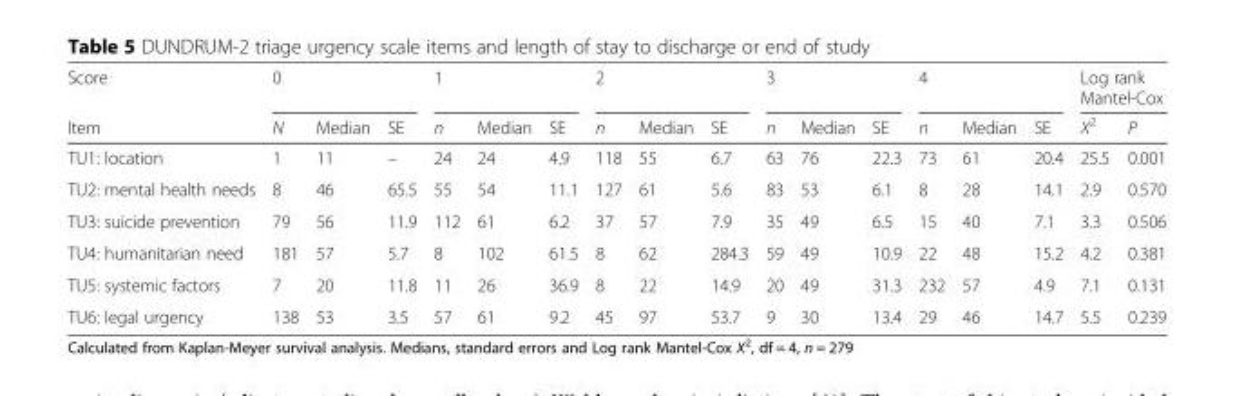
<table><thead><tr><td rowspan="2">Score Item</td><td colspan="3">0</td><td colspan="3">1</td><td colspan="3">2</td><td colspan="3">3</td><td colspan="3">4</td><td colspan="2">Log rank Mantel-Cox</td></tr><tr><td>N</td><td>Median</td><td>SE</td><td>n</td><td>Median</td><td>SE</td><td>n</td><td>Median</td><td>SE</td><td>n</td><td>Median</td><td>SE</td><td>n</td><td>Median</td><td>SE</td><td>X<sup>2</sup></td><td>P</td></tr></thead><tbody><tr><td>TU1: location</td><td>1</td><td>11</td><td>–</td><td>24</td><td>24</td><td>4.9</td><td>118</td><td>55</td><td>6.7</td><td>63</td><td>76</td><td>22.3</td><td>73</td><td>61</td><td>20.4</td><td>25.5</td><td>0.001</td></tr><tr><td>TU2: mental health needs</td><td>8</td><td>46</td><td>65.5</td><td>55</td><td>54</td><td>11.1</td><td>127</td><td>61</td><td>5.6</td><td>83</td><td>53</td><td>6.1</td><td>8</td><td>28</td><td>14.1</td><td>2.9</td><td>0.570</td></tr><tr><td>TU3: suicide prevention</td><td>79</td><td>56</td><td>11.9</td><td>112</td><td>61</td><td>6.2</td><td>37</td><td>57</td><td>7.9</td><td>35</td><td>49</td><td>6.5</td><td>15</td><td>40</td><td>7.1</td><td>3.3</td><td>0.506</td></tr><tr><td>TU4: humanitarian need</td><td>181</td><td>57</td><td>5.7</td><td>8</td><td>102</td><td>61.5</td><td>8</td><td>62</td><td>284.3</td><td>59</td><td>49</td><td>10.9</td><td>22</td><td>48</td><td>15.2</td><td>4.2</td><td>0.381</td></tr><tr><td>TU5: systemic factors</td><td>7</td><td>20</td><td>11.8</td><td>11</td><td>26</td><td>36.9</td><td>8</td><td>22</td><td>14.9</td><td>20</td><td>49</td><td>31.3</td><td>232</td><td>57</td><td>4.9</td><td>7.1</td><td>0.131</td></tr><tr><td>TU6: legal urgency</td><td>138</td><td>53</td><td>3.5</td><td>57</td><td>61</td><td>9.2</td><td>45</td><td>97</td><td>53.7</td><td>9</td><td>30</td><td>13.4</td><td>29</td><td>46</td><td>14.7</td><td>5.5</td><td>0.239</td></tr></tbody></table>